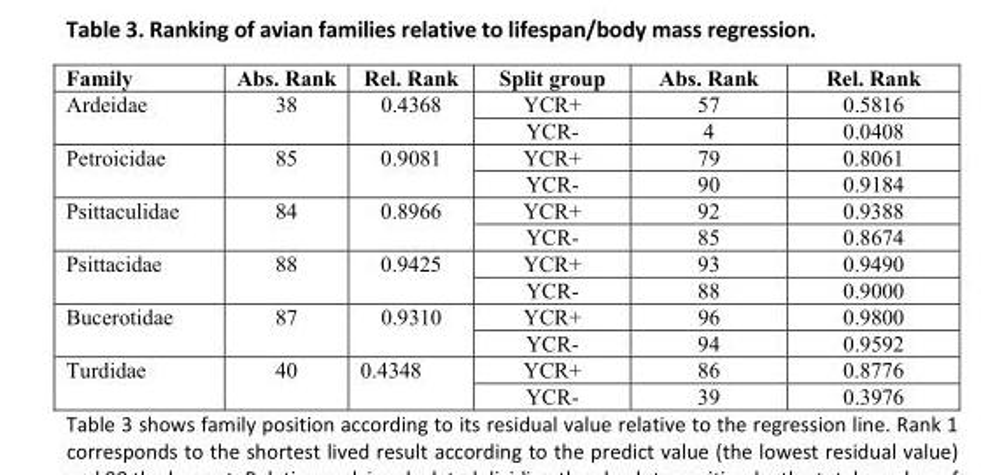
<table><thead><tr><td>Family</td><td>Abs. Rank</td><td>Rel. Rank</td><td>Split group</td><td>Abs. Rank</td><td>Rel. Rank</td></tr></thead><tbody><tr><td rowspan="2">Ardeidae</td><td rowspan="2">38</td><td rowspan="2">0.4368</td><td>YCR+</td><td>57</td><td>0.5816</td></tr><tr><td>YCR-</td><td>4</td><td>0.0408</td></tr><tr><td rowspan="2">Petroicidae</td><td rowspan="2">85</td><td rowspan="2">0.9081</td><td>YCR+</td><td>79</td><td>0.8061</td></tr><tr><td>YCR-</td><td>90</td><td>0.9184</td></tr><tr><td rowspan="2">Psittaculidae</td><td rowspan="2">84</td><td rowspan="2">0.8966</td><td>YCR+</td><td>92</td><td>0.9388</td></tr><tr><td>YCR-</td><td>85</td><td>0.8674</td></tr><tr><td rowspan="2">Psittacidae</td><td rowspan="2">88</td><td rowspan="2">0.9425</td><td>YCR+</td><td>93</td><td>0.9490</td></tr><tr><td>YCR-</td><td>88</td><td>0.9000</td></tr><tr><td rowspan="2">Bucerotidae</td><td rowspan="2">87</td><td rowspan="2">0.9310</td><td>YCR+</td><td>96</td><td>0.9800</td></tr><tr><td>YCR-</td><td>94</td><td>0.9592</td></tr><tr><td rowspan="2">Turdidae</td><td rowspan="2">40</td><td rowspan="2">0.4348</td><td>YCR+</td><td>86</td><td>0.8776</td></tr><tr><td>YCR-</td><td>39</td><td>0.3976</td></tr></tbody></table>